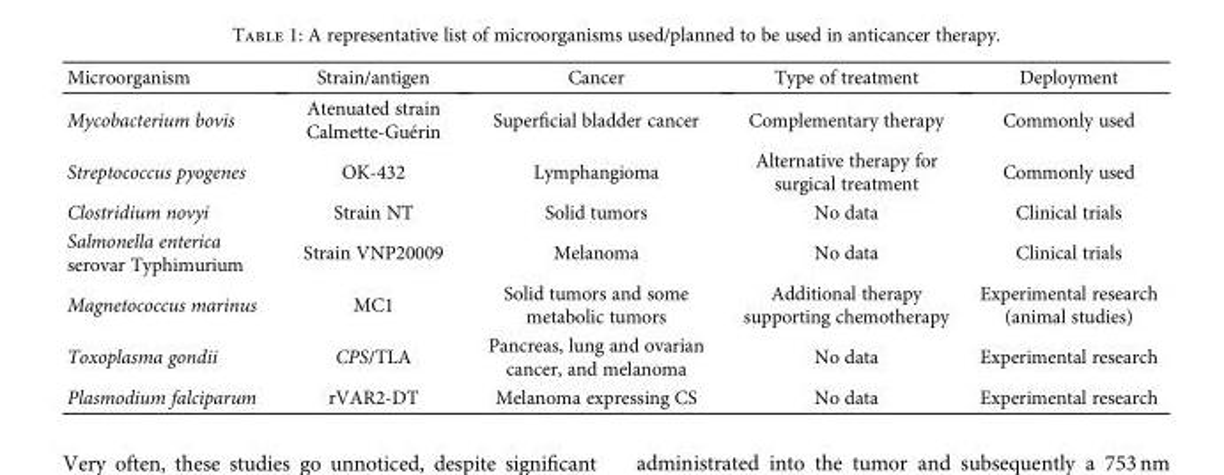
<table><thead><tr><td>Microorganism</td><td>Strain/antigen</td><td>Cancer</td><td>Type of treatment</td><td>Deployment</td></tr></thead><tbody><tr><td>Mycobacterium bovis</td><td>Atenuated strain Calmette-Guérin</td><td>Superficial bladder cancer</td><td>Complementary therapy</td><td>Commonly used</td></tr><tr><td>Streptococcus pyogenes</td><td>OK-432</td><td>Lymphangioma</td><td>Alternative therapy for surgical treatment</td><td>Commonly used</td></tr><tr><td>Clostridium novyi</td><td>Strain NT</td><td>Solid tumors</td><td>No data</td><td>Clinical trials</td></tr><tr><td>Salmonella enterica serovar Typhimurium</td><td>Strain VNP20009</td><td>Melanoma</td><td>No data</td><td>Clinical trials</td></tr><tr><td>Magnetococcus marinus</td><td>MC1</td><td>Solid tumors and some metabolic tumors</td><td>Additional therapy supporting chemotherapy</td><td>Experimental research (animal studies)</td></tr><tr><td>Toxoplasma gondii</td><td>CPS/TLA</td><td>Pancreas, lung and ovarian cancer, and melanoma</td><td>No data</td><td>Experimental research</td></tr><tr><td>Plasmodium falciparum</td><td>rVAR2-DT</td><td>Melanoma expressing CS</td><td>No data</td><td>Experimental research</td></tr></tbody></table>